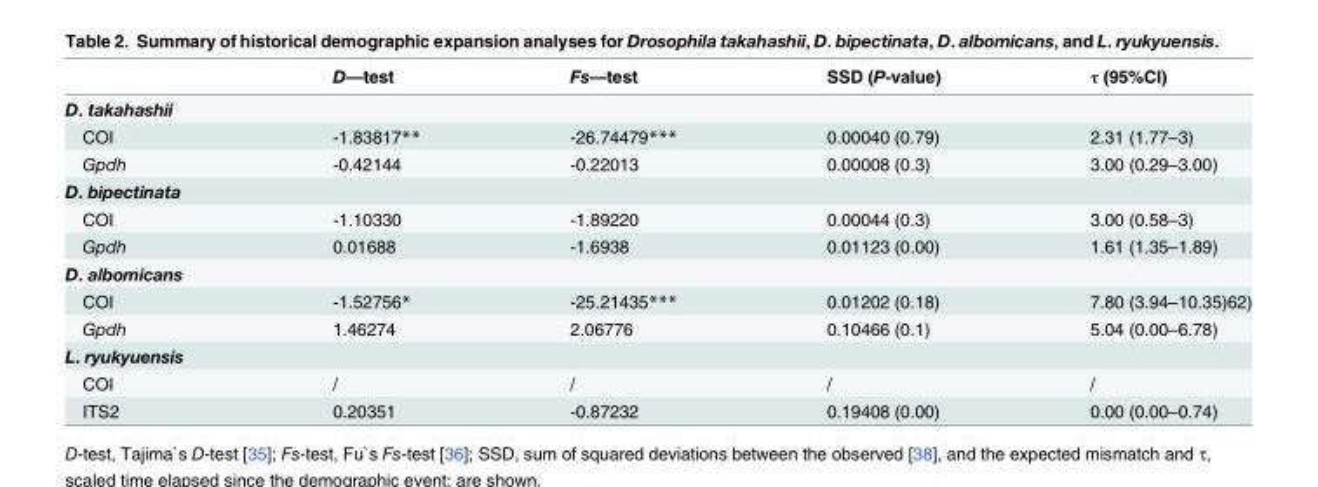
<table><thead><tr><td></td><td>D—test</td><td>Fs—test</td><td>SSD (P-value)</td><td>τ (95%CI)</td></tr></thead><tbody><tr><td colspan="5">D. takahashii</td></tr><tr><td>COI</td><td>-1.83817**</td><td>-26.74479***</td><td>0.00040 (0.79)</td><td>2.31 (1.77–3)</td></tr><tr><td>Gpdh</td><td>-0.42144</td><td>-0.22013</td><td>0.00008 (0.3)</td><td>3.00 (0.29–3.00)</td></tr><tr><td colspan="5">D. bipectinata</td></tr><tr><td>COI</td><td>-1.10330</td><td>-1.89220</td><td>0.00044 (0.3)</td><td>3.00 (0.58–3)</td></tr><tr><td>Gpdh</td><td>0.01688</td><td>-1.6938</td><td>0.01123 (0.00)</td><td>1.61 (1.35–1.89)</td></tr><tr><td colspan="5">D. albomicans</td></tr><tr><td>COI</td><td>-1.52756*</td><td>-25.21435***</td><td>0.01202 (0.18)</td><td>7.80 (3.94–10.35)62)</td></tr><tr><td>Gpdh</td><td>1.46274</td><td>2.06776</td><td>0.10466 (0.1)</td><td>5.04 (0.00–6.78)</td></tr><tr><td colspan="5">L. ryukyuensis</td></tr><tr><td>COI</td><td>/</td><td>/</td><td>/</td><td>/</td></tr><tr><td>ITS2</td><td>0.20351</td><td>-0.87232</td><td>0.19408 (0.00)</td><td>0.00 (0.00–0.74)</td></tr></tbody></table>